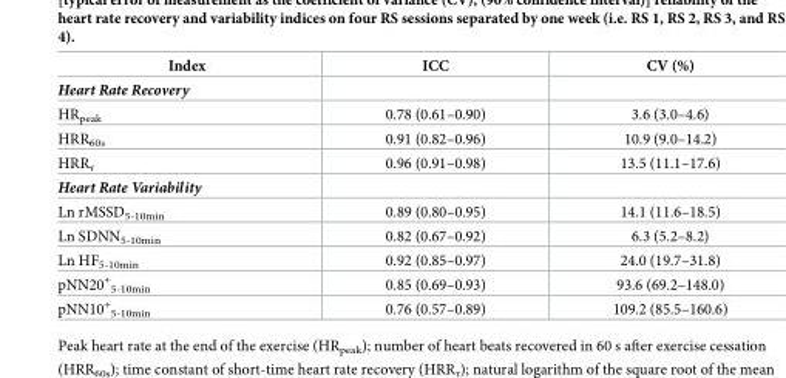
<table><thead><tr><td>Index</td><td>ICC</td><td>CV (%)</td></tr></thead><tbody><tr><td colspan="3">Heart Rate Recovery</td></tr><tr><td>HR<sub>peak</sub></td><td>0.78 (0.61–0.90)</td><td>3.6 (3.0–4.6)</td></tr><tr><td>HRR<sub>60s</sub></td><td>0.91 (0.82–0.96)</td><td>10.9 (9.0–14.2)</td></tr><tr><td>HRR<sub>τ</sub></td><td>0.96 (0.91–0.98)</td><td>13.5 (11.1–17.6)</td></tr><tr><td colspan="3">Heart Rate Variability</td></tr><tr><td>Ln rMSSD<sub>5-10min</sub></td><td>0.89 (0.80–0.95)</td><td>14.1 (11.6–18.5)</td></tr><tr><td>Ln SDNN<sub>5-10min</sub></td><td>0.82 (0.67–0.92)</td><td>6.3 (5.2–8.2)</td></tr><tr><td>Ln HF<sub>5-10min</sub></td><td>0.92 (0.85–0.97)</td><td>24.0 (19.7–31.8)</td></tr><tr><td>pNN20<sup>+</sup> <sub>5-10min</sub></td><td>0.85 (0.69–0.93)</td><td>93.6 (69.2–148.0)</td></tr><tr><td>pNN10<sup>+</sup> <sub>5-10min</sub></td><td>0.76 (0.57–0.89)</td><td>109.2 (85.5–160.6)</td></tr></tbody></table>